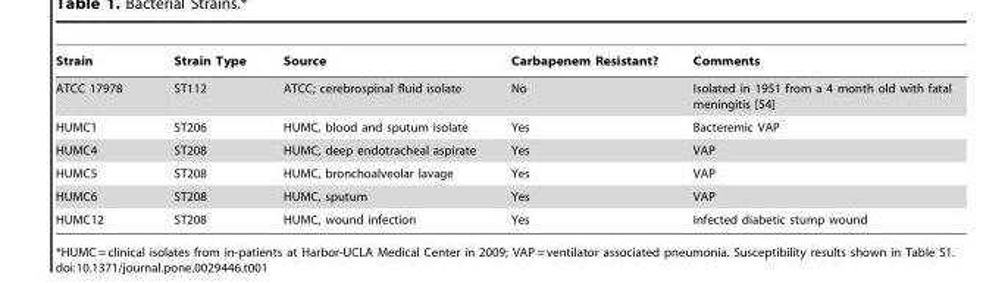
<table><thead><tr><td>Strain</td><td>Strain Type</td><td>Source</td><td>Carbapenem Resistant?</td><td>Comments</td></tr></thead><tbody><tr><td>ATCC 17978</td><td>ST112</td><td>ATCC; cerebrospinal fluid isolate</td><td>No</td><td>Isolated in 1951 from a 4 month old with fatal meningitis [54]</td></tr><tr><td>HUMC1</td><td>ST206</td><td>HUMC, blood and sputum isolate</td><td>Yes</td><td>Bacteremic VAP</td></tr><tr><td>HUMC4</td><td>ST208</td><td>HUMC, deep endotracheal aspirate</td><td>Yes</td><td>VAP</td></tr><tr><td>HUMC5</td><td>ST208</td><td>HUMC, bronchoalveolar lavage</td><td>Yes</td><td>VAP</td></tr><tr><td>HUMC6</td><td>ST208</td><td>HUMC, sputum</td><td>Yes</td><td>VAP</td></tr><tr><td>HUMC12</td><td>ST208</td><td>HUMC, wound infection</td><td>Yes</td><td>Infected diabetic stump wound</td></tr></tbody></table>